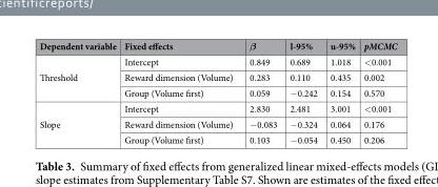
<table><thead><tr><td>Dependent variable</td><td>Fixed effects</td><td>β</td><td>l-95%</td><td>u-95%</td><td>pMCMC</td></tr></thead><tbody><tr><td rowspan="3">Threshold</td><td>Intercept</td><td>0.849</td><td>0.689</td><td>1.018</td><td>&lt;0.001</td></tr><tr><td>Reward dimension (Volume)</td><td>0.283</td><td>0.110</td><td>0.435</td><td>0.002</td></tr><tr><td>Group (Volume first)</td><td>0.059</td><td>−0.242</td><td>0.154</td><td>0.570</td></tr><tr><td rowspan="3">Slope</td><td>Intercept</td><td>2.830</td><td>2.481</td><td>3.001</td><td>&lt;0.001</td></tr><tr><td>Reward dimension (Volume)</td><td>−0.083</td><td>−0.324</td><td>0.064</td><td>0.176</td></tr><tr><td>Group (Volume first)</td><td>0.103</td><td>−0.054</td><td>0.450</td><td>0.206</td></tr></tbody></table>